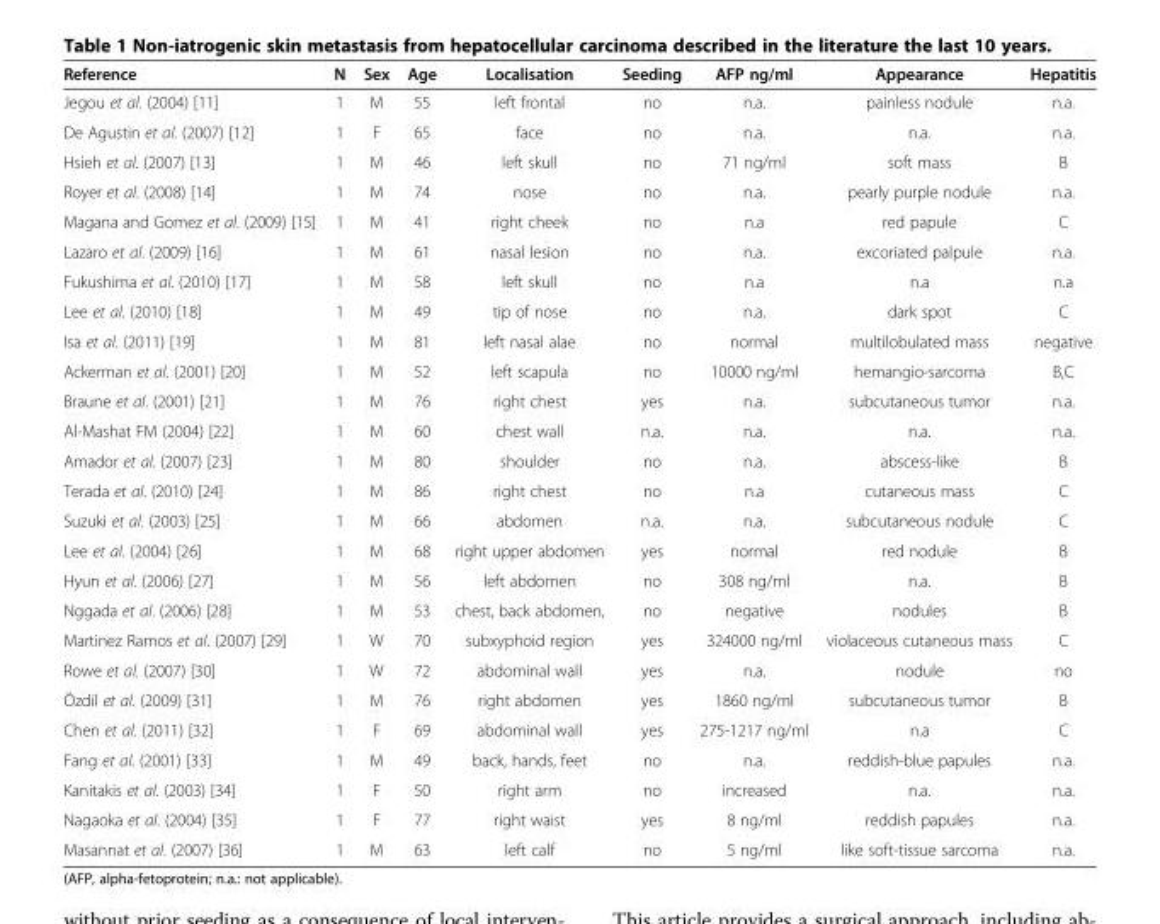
<table><thead><tr><td>Reference</td><td>N</td><td>Sex</td><td>Age</td><td>Localisation</td><td>Seeding</td><td>AFP ng/ml</td><td>Appearance</td><td>Hepatitis</td></tr></thead><tbody><tr><td>Jegou et al. (2004) [11]</td><td>1</td><td>M</td><td>55</td><td>left frontal</td><td>no</td><td>n.a.</td><td>painless nodule</td><td>n.a.</td></tr><tr><td>De Agustin et al. (2007) [12]</td><td>1</td><td>F</td><td>65</td><td>face</td><td>no</td><td>n.a.</td><td>n.a.</td><td>n.a.</td></tr><tr><td>Hsieh et al. (2007) [13]</td><td>1</td><td>M</td><td>46</td><td>left skull</td><td>no</td><td>71 ng/ml</td><td>soft mass</td><td>B</td></tr><tr><td>Royer et al. (2008) [14]</td><td>1</td><td>M</td><td>74</td><td>nose</td><td>no</td><td>n.a.</td><td>pearly purple nodule</td><td>n.a.</td></tr><tr><td>Magana and Gomez et al. (2009) [15]</td><td>1</td><td>M</td><td>41</td><td>right cheek</td><td>no</td><td>n.a</td><td>red papule</td><td>C</td></tr><tr><td>Lazaro et al. (2009) [16]</td><td>1</td><td>M</td><td>61</td><td>nasal lesion</td><td>no</td><td>n.a.</td><td>excoriated palpule</td><td>n.a.</td></tr><tr><td>Fukushima et al. (2010) [17]</td><td>1</td><td>M</td><td>58</td><td>left skull</td><td>no</td><td>n.a</td><td>n.a</td><td>n.a</td></tr><tr><td>Lee et al. (2010) [18]</td><td>1</td><td>M</td><td>49</td><td>tip of nose</td><td>no</td><td>n.a.</td><td>dark spot</td><td>C</td></tr><tr><td>Isa et al. (2011) [19]</td><td>1</td><td>M</td><td>81</td><td>left nasal alae</td><td>no</td><td>normal</td><td>multilobulated mass</td><td>negative</td></tr><tr><td>Ackerman et al. (2001) [20]</td><td>1</td><td>M</td><td>52</td><td>left scapula</td><td>no</td><td>10000 ng/ml</td><td>hemangio-sarcoma</td><td>B,C</td></tr><tr><td>Braune et al. (2001) [21]</td><td>1</td><td>M</td><td>76</td><td>right chest</td><td>yes</td><td>n.a.</td><td>subcutaneous tumor</td><td>n.a.</td></tr><tr><td>Al-Mashat FM (2004) [22]</td><td>1</td><td>M</td><td>60</td><td>chest wall</td><td>n.a.</td><td>n.a.</td><td>n.a.</td><td>n.a.</td></tr><tr><td>Amador et al. (2007) [23]</td><td>1</td><td>M</td><td>80</td><td>shoulder</td><td>no</td><td>n.a.</td><td>abscess-like</td><td>B</td></tr><tr><td>Terada et al. (2010) [24]</td><td>1</td><td>M</td><td>86</td><td>right chest</td><td>no</td><td>n.a</td><td>cutaneous mass</td><td>C</td></tr><tr><td>Suzuki et al. (2003) [25]</td><td>1</td><td>M</td><td>66</td><td>abdomen</td><td>n.a.</td><td>n.a.</td><td>subcutaneous nodule</td><td>C</td></tr><tr><td>Lee et al. (2004) [26]</td><td>1</td><td>M</td><td>68</td><td>right upper abdomen</td><td>yes</td><td>normal</td><td>red nodule</td><td>B</td></tr><tr><td>Hyun et al. (2006) [27]</td><td>1</td><td>M</td><td>56</td><td>left abdomen</td><td>no</td><td>308 ng/ml</td><td>n.a.</td><td>B</td></tr><tr><td>Nggada et al. (2006) [28]</td><td>1</td><td>M</td><td>53</td><td>chest, back abdomen,</td><td>no</td><td>negative</td><td>nodules</td><td>B</td></tr><tr><td>Martinez Ramos et al. (2007) [29]</td><td>1</td><td>W</td><td>70</td><td>subxyphoid region</td><td>yes</td><td>324000 ng/ml</td><td>violaceous cutaneous mass</td><td>C</td></tr><tr><td>Rowe et al. (2007) [30]</td><td>1</td><td>W</td><td>72</td><td>abdominal wall</td><td>yes</td><td>n.a.</td><td>nodule</td><td>no</td></tr><tr><td>Özdil et al. (2009) [31]</td><td>1</td><td>M</td><td>76</td><td>right abdomen</td><td>yes</td><td>1860 ng/ml</td><td>subcutaneous tumor</td><td>B</td></tr><tr><td>Chen et al. (2011) [32]</td><td>1</td><td>F</td><td>69</td><td>abdominal wall</td><td>yes</td><td>275-1217 ng/ml</td><td>n.a</td><td>C</td></tr><tr><td>Fang et al. (2001) [33]</td><td>1</td><td>M</td><td>49</td><td>back, hands, feet</td><td>no</td><td>n.a.</td><td>reddish-blue papules</td><td>n.a.</td></tr><tr><td>Kanitakis et al. (2003) [34]</td><td>1</td><td>F</td><td>50</td><td>right arm</td><td>no</td><td>increased</td><td>n.a.</td><td>n.a.</td></tr><tr><td>Nagaoka et al. (2004) [35]</td><td>1</td><td>F</td><td>77</td><td>right waist</td><td>yes</td><td>8 ng/ml</td><td>reddish papules</td><td>n.a.</td></tr><tr><td>Masannat et al. (2007) [36]</td><td>1</td><td>M</td><td>63</td><td>left calf</td><td>no</td><td>5 ng/ml</td><td>like soft-tissue sarcoma</td><td>n.a.</td></tr></tbody></table>